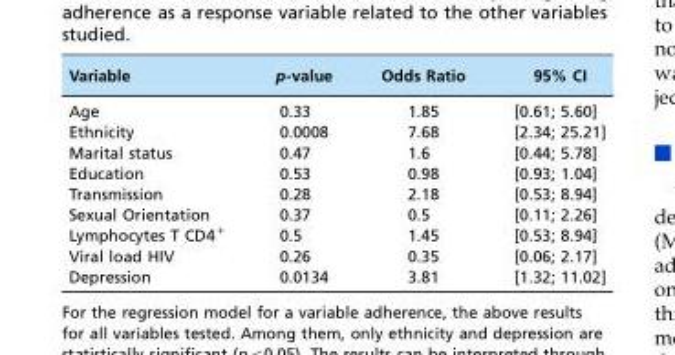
<table><thead><tr><td>Variable</td><td>p-value</td><td>Odds Ratio</td><td>95% CI</td></tr></thead><tbody><tr><td>Age</td><td>0.33</td><td>1.85</td><td>[0.61; 5.60]</td></tr><tr><td>Ethnicity</td><td>0.0008</td><td>7.68</td><td>[2.34; 25.21]</td></tr><tr><td>Marital status</td><td>0.47</td><td>1.6</td><td>[0.44; 5.78]</td></tr><tr><td>Education</td><td>0.53</td><td>0.98</td><td>[0.93; 1.04]</td></tr><tr><td>Transmission</td><td>0.28</td><td>2.18</td><td>[0.53; 8.94]</td></tr><tr><td>Sexual Orientation</td><td>0.37</td><td>0.5</td><td>[0.11; 2.26]</td></tr><tr><td>Lymphocytes T CD4<sup>+</sup></td><td>0.5</td><td>1.45</td><td>[0.53; 8.94]</td></tr><tr><td>Viral load HIV</td><td>0.26</td><td>0.35</td><td>[0.06; 2.17]</td></tr><tr><td>Depression</td><td>0.0134</td><td>3.81</td><td>[1.32; 11.02]</td></tr></tbody></table>